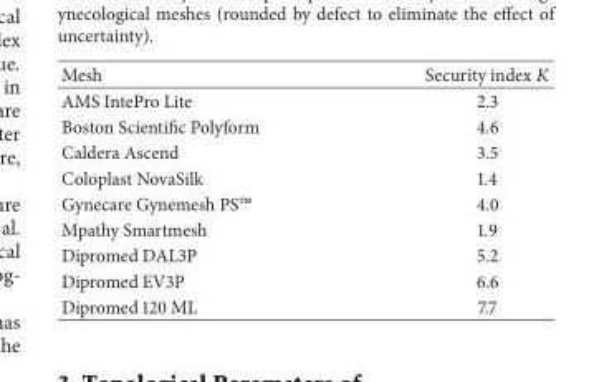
<table><thead><tr><td>Mesh</td><td>Security index</td></tr></thead><tbody><tr><td>AMS IntePro Lite</td><td>2.3</td></tr><tr><td>Boston Scientific Polyform</td><td>4.6</td></tr><tr><td>Caldera Ascend</td><td>3.5</td></tr><tr><td>Coloplast NovaSilk</td><td>1.4</td></tr><tr><td>Gynecare Gynemesh PS™</td><td>4.0</td></tr><tr><td>Mpathy Smartmesh</td><td>1.9</td></tr><tr><td>Dipromed DAL3P</td><td>5.2</td></tr><tr><td>Dipromed EV3P</td><td>6.6</td></tr><tr><td>Dipromed 120 ML</td><td>7.7</td></tr></tbody></table>